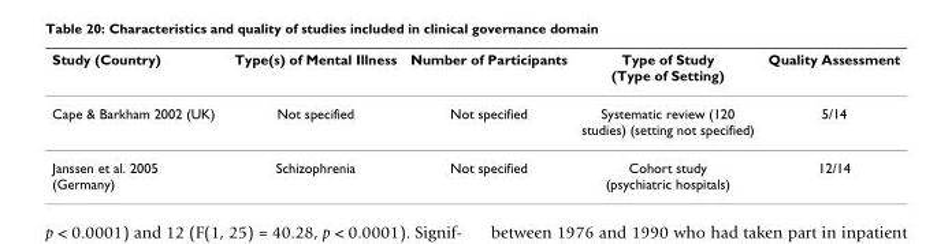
<table><thead><tr><td>Study (Country)</td><td>Type(s) of Mental Illness</td><td>Number of Participants</td><td>Type of Study (Type of Setting)</td><td>Quality Assessment</td></tr></thead><tbody><tr><td>Cape &amp; Barkham 2002 (UK)</td><td>Not specified</td><td>Not specified</td><td>Systematic review (120 studies) (setting not specified)</td><td>5/14</td></tr><tr><td>Janssen et al. 2005 (Germany)</td><td>Schizophrenia</td><td>Not specified</td><td>Cohort study (psychiatric hospitals)</td><td>12/14</td></tr></tbody></table>